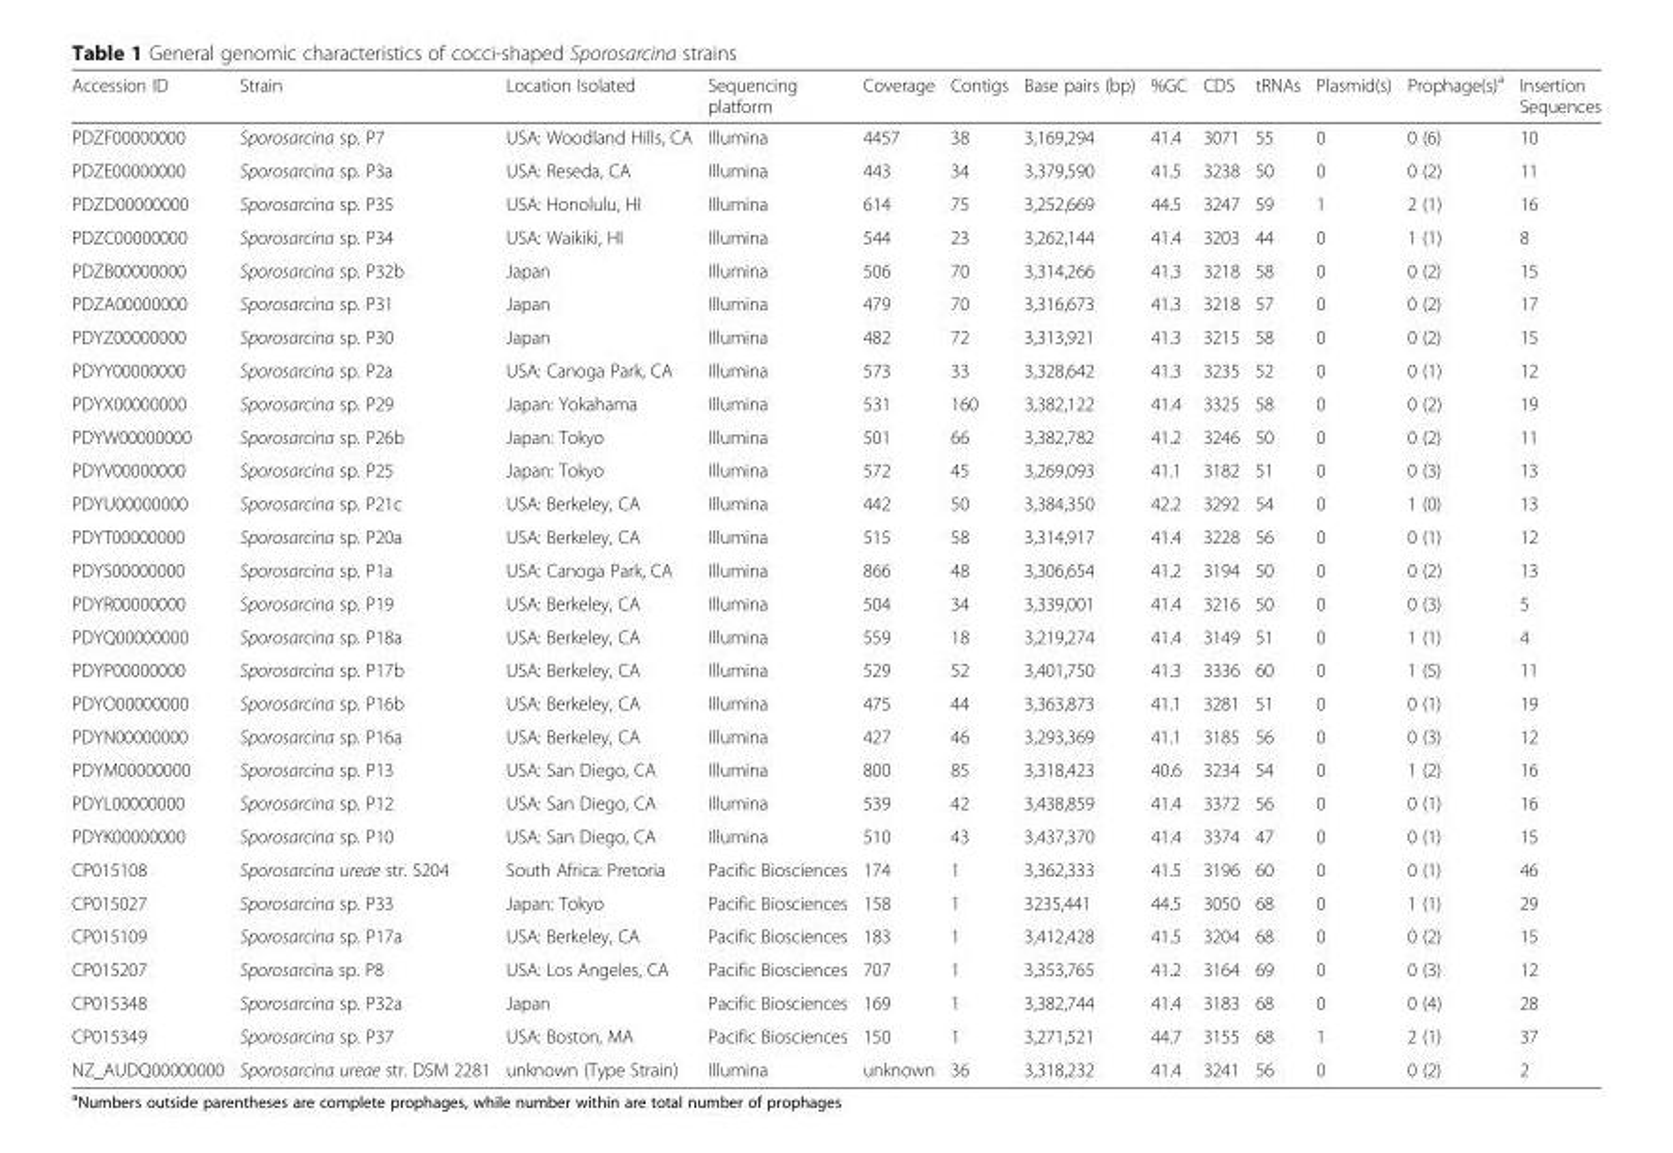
<table><thead><tr><td>Accession ID</td><td>Strain</td><td>Location Isolated</td><td>Sequencing platform</td><td>Coverage</td><td>Contigs</td><td>Base pairs (bp)</td><td>%GC</td><td>CDS</td><td>tRNAs</td><td>Plasmid(s)</td><td>Prophage(s)<sup>a</sup></td><td>Insertion Sequences</td></tr></thead><tbody><tr><td>PDZF00000000</td><td>Sporosarcina sp. P7</td><td>USA: Woodland Hills, CA</td><td>Illumina</td><td>4457</td><td>38</td><td>3,169,294</td><td>41.4</td><td>3071</td><td>55</td><td>0</td><td>0 (6)</td><td>10</td></tr><tr><td>PDZE00000000</td><td>Sporosarcina sp. P3a</td><td>USA: Reseda, CA</td><td>Illumina</td><td>443</td><td>34</td><td>3,379,590</td><td>41.5</td><td>3238</td><td>50</td><td>0</td><td>0 (2)</td><td>11</td></tr><tr><td>PDZD00000000</td><td>Sporosarcina sp. P35</td><td>USA: Honolulu, HI</td><td>Illumina</td><td>614</td><td>75</td><td>3,252,669</td><td>44.5</td><td>3247</td><td>59</td><td>1</td><td>2 (1)</td><td>16</td></tr><tr><td>PDZC00000000</td><td>Sporosarcina sp. P34</td><td>USA: Waikiki, HI</td><td>Illumina</td><td>544</td><td>23</td><td>3,262,144</td><td>41.4</td><td>3203</td><td>44</td><td>0</td><td>1 (1)</td><td>8</td></tr><tr><td>PDZB00000000</td><td>Sporosarcina sp. P32b</td><td>Japan</td><td>Illumina</td><td>506</td><td>70</td><td>3,314,266</td><td>41.3</td><td>3218</td><td>58</td><td>0</td><td>0 (2)</td><td>15</td></tr><tr><td>PDZA00000000</td><td>Sporosarcina sp. P31</td><td>Japan</td><td>Illumina</td><td>479</td><td>70</td><td>3,316,673</td><td>41.3</td><td>3218</td><td>57</td><td>0</td><td>0 (2)</td><td>17</td></tr><tr><td>PDYZ00000000</td><td>Sporosarcina sp. P30</td><td>Japan</td><td>Illumina</td><td>482</td><td>72</td><td>3,313,921</td><td>41.3</td><td>3215</td><td>58</td><td>0</td><td>0 (2)</td><td>15</td></tr><tr><td>PDYY00000000</td><td>Sporosarcina sp. P2a</td><td>USA: Canoga Park, CA</td><td>Illumina</td><td>573</td><td>33</td><td>3,328,642</td><td>41.3</td><td>3235</td><td>52</td><td>0</td><td>0 (1)</td><td>12</td></tr><tr><td>PDYX00000000</td><td>Sporosarcina sp. P29</td><td>Japan: Yokahama</td><td>Illumina</td><td>531</td><td>160</td><td>3,382,122</td><td>41.4</td><td>3325</td><td>58</td><td>0</td><td>0 (2)</td><td>19</td></tr><tr><td>PDYW00000000</td><td>Sporosarcina sp. P26b</td><td>Japan: Tokyo</td><td>Illumina</td><td>501</td><td>66</td><td>3,382,782</td><td>41.2</td><td>3246</td><td>50</td><td>0</td><td>0 (2)</td><td>11</td></tr><tr><td>PDYV00000000</td><td>Sporosarcina sp. P25</td><td>Japan: Tokyo</td><td>Illumina</td><td>572</td><td>45</td><td>3,269,093</td><td>41.1</td><td>3182</td><td>51</td><td>0</td><td>0 (3)</td><td>13</td></tr><tr><td>PDYU00000000</td><td>Sporosarcina sp. P21c</td><td>USA: Berkeley, CA</td><td>Illumina</td><td>442</td><td>50</td><td>3,384,350</td><td>42.2</td><td>3292</td><td>54</td><td>0</td><td>1 (0)</td><td>13</td></tr><tr><td>PDYT00000000</td><td>Sporosarcina sp. P20a</td><td>USA: Berkeley, CA</td><td>Illumina</td><td>515</td><td>58</td><td>3,314,917</td><td>41.4</td><td>3228</td><td>56</td><td>0</td><td>0 (1)</td><td>12</td></tr><tr><td>PDYS00000000</td><td>Sporosarcina sp. P1a</td><td>USA: Canoga Park, CA</td><td>Illumina</td><td>866</td><td>48</td><td>3,306,654</td><td>41.2</td><td>3194</td><td>50</td><td>0</td><td>0 (2)</td><td>13</td></tr><tr><td>PDYR00000000</td><td>Sporosarcina sp. P19</td><td>USA: Berkeley, CA</td><td>Illumina</td><td>504</td><td>34</td><td>3,339,001</td><td>41.4</td><td>3216</td><td>50</td><td>0</td><td>0 (3)</td><td>5</td></tr><tr><td>PDYQ00000000</td><td>Sporosarcina sp. P18a</td><td>USA: Berkeley, CA</td><td>Illumina</td><td>559</td><td>18</td><td>3,219,274</td><td>41.4</td><td>3149</td><td>51</td><td>0</td><td>1 (1)</td><td>4</td></tr><tr><td>PDYP00000000</td><td>Sporosarcina sp. P17b</td><td>USA: Berkeley, CA</td><td>Illumina</td><td>529</td><td>52</td><td>3,401,750</td><td>41.3</td><td>3336</td><td>60</td><td>0</td><td>1 (5)</td><td>11</td></tr><tr><td>PDYO00000000</td><td>Sporosarcina sp. P16b</td><td>USA: Berkeley, CA</td><td>Illumina</td><td>475</td><td>44</td><td>3,363,873</td><td>41.1</td><td>3281</td><td>51</td><td>0</td><td>0 (1)</td><td>19</td></tr><tr><td>PDYN00000000</td><td>Sporosarcina sp. P16a</td><td>USA: Berkeley, CA</td><td>Illumina</td><td>427</td><td>46</td><td>3,293,369</td><td>41.1</td><td>3185</td><td>56</td><td>0</td><td>0 (3)</td><td>12</td></tr><tr><td>PDYM00000000</td><td>Sporosarcina sp. P13</td><td>USA: San Diego, CA</td><td>Illumina</td><td>800</td><td>85</td><td>3,318,423</td><td>40.6</td><td>3234</td><td>54</td><td>0</td><td>1 (2)</td><td>16</td></tr><tr><td>PDYL00000000</td><td>Sporosarcina sp. P12</td><td>USA: San Diego, CA</td><td>Illumina</td><td>539</td><td>42</td><td>3,438,859</td><td>41.4</td><td>3372</td><td>56</td><td>0</td><td>0 (1)</td><td>16</td></tr><tr><td>PDYK00000000</td><td>Sporosarcina sp. P10</td><td>USA: San Diego, CA</td><td>Illumina</td><td>510</td><td>43</td><td>3,437,370</td><td>41.4</td><td>3374</td><td>47</td><td>0</td><td>0 (1)</td><td>15</td></tr><tr><td>CP015108</td><td>Sporosarcina ureae str. S204</td><td>South Africa: Pretoria</td><td>Pacific Biosciences</td><td>174</td><td>1</td><td>3,362,333</td><td>41.5</td><td>3196</td><td>60</td><td>0</td><td>0 (1)</td><td>46</td></tr><tr><td>CP015027</td><td>Sporosarcina sp. P33</td><td>Japan: Tokyo</td><td>Pacific Biosciences</td><td>158</td><td>1</td><td>3235,441</td><td>44.5</td><td>3050</td><td>68</td><td>0</td><td>1 (1)</td><td>29</td></tr><tr><td>CP015109</td><td>Sporosarcina sp. P17a</td><td>USA: Berkeley, CA</td><td>Pacific Biosciences</td><td>183</td><td>1</td><td>3,412,428</td><td>41.5</td><td>3204</td><td>68</td><td>0</td><td>0 (2)</td><td>15</td></tr><tr><td>CP015207</td><td>Sporosarcina sp. P8</td><td>USA: Los Angeles, CA</td><td>Pacific Biosciences</td><td>707</td><td>1</td><td>3,353,765</td><td>41.2</td><td>3164</td><td>69</td><td>0</td><td>0 (3)</td><td>12</td></tr><tr><td>CP015348</td><td>Sporosarcina sp. P32a</td><td>Japan</td><td>Pacific Biosciences</td><td>169</td><td>1</td><td>3,382,744</td><td>41.4</td><td>3183</td><td>68</td><td>0</td><td>0 (4)</td><td>28</td></tr><tr><td>CP015349</td><td>Sporosarcina sp. P37</td><td>USA: Boston, MA</td><td>Pacific Biosciences</td><td>150</td><td>1</td><td>3,271,521</td><td>44.7</td><td>3155</td><td>68</td><td>1</td><td>2 (1)</td><td>37</td></tr><tr><td>NZ_AUDQ00000000</td><td>Sporosarcina ureae str. DSM 2281</td><td>unknown (Type Strain)</td><td>Illumina</td><td>unknown</td><td>36</td><td>3,318,232</td><td>41.4</td><td>3241</td><td>56</td><td>0</td><td>0 (2)</td><td>2</td></tr></tbody></table>